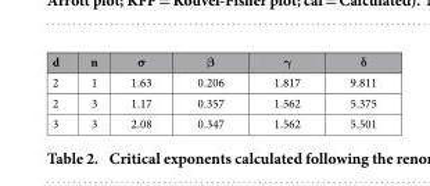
<table><thead><tr><td>d</td><td>n</td><td>σ</td><td>β</td><td>γ</td><td>δ</td></tr></thead><tbody><tr><td>2</td><td>1</td><td>1.63</td><td>0.206</td><td>1.817</td><td>9.811</td></tr><tr><td>2</td><td>3</td><td>1.17</td><td>0.357</td><td>1.562</td><td>5.375</td></tr><tr><td>3</td><td>3</td><td>2.08</td><td>0.347</td><td>1.562</td><td>5.501</td></tr></tbody></table>